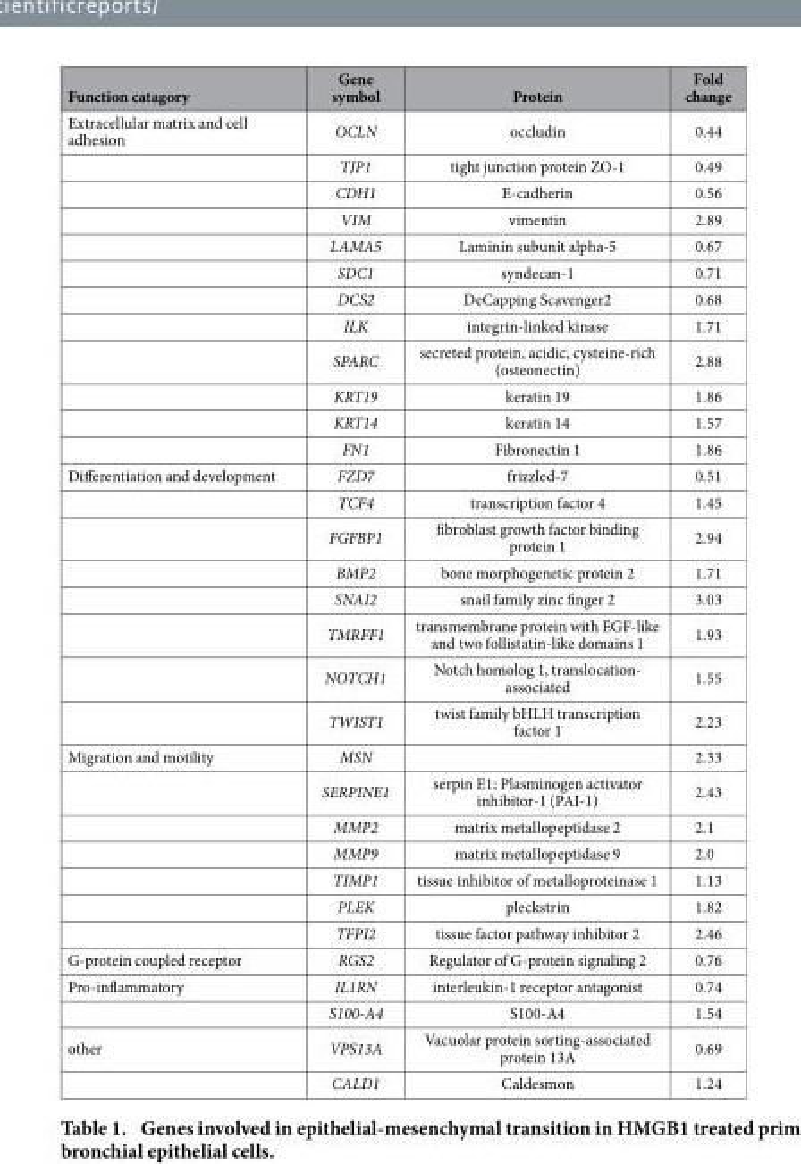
<table><thead><tr><td>Function catagory</td><td>Gene symbol</td><td>Protein</td><td>Fold change</td></tr></thead><tbody><tr><td rowspan="12">Extracellular matrix and cell adhesion</td><td>OCLN</td><td>occludin</td><td>0.44</td></tr><tr><td>TJP1</td><td>tight junction protein ZO-1</td><td>0.49</td></tr><tr><td>CDH1</td><td>E-cadherin</td><td>0.56</td></tr><tr><td>VIM</td><td>vimentin</td><td>2.89</td></tr><tr><td>LAMA5</td><td>Laminin subunit alpha-5</td><td>0.67</td></tr><tr><td>SDC1</td><td>syndecan-1</td><td>0.71</td></tr><tr><td>DCS2</td><td>DeCapping Scavenger2</td><td>0.68</td></tr><tr><td>ILK</td><td>integrin-linked kinase</td><td>1.71</td></tr><tr><td>SPARC</td><td>secreted protein, acidic, cysteine-rich (osteonectin)</td><td>2.88</td></tr><tr><td>KRT19</td><td>keratin 19</td><td>1.86</td></tr><tr><td>KRT14</td><td>keratin 14</td><td>1.57</td></tr><tr><td>FN1</td><td>Fibronectin 1</td><td>1.86</td></tr><tr><td rowspan="8">Differentiation and development</td><td>FZD7</td><td>frizzled-7</td><td>0.51</td></tr><tr><td>TCF4</td><td>transcription factor 4</td><td>1.45</td></tr><tr><td>FGFBP1</td><td>fibroblast growth factor binding protein 1</td><td>2.94</td></tr><tr><td>BMP2</td><td>bone morphogenetic protein 2</td><td>1.71</td></tr><tr><td>SNAI2</td><td>snail family zinc finger 2</td><td>3.03</td></tr><tr><td>TMRFF1</td><td>transmembrane protein with EGF-like and two follistatin-like domains 1</td><td>1.93</td></tr><tr><td>NOTCH1</td><td>Notch homolog 1, translocation- associated</td><td>1.55</td></tr><tr><td>TWIST1</td><td>twist family bHLH transcription factor 1</td><td>2.23</td></tr><tr><td rowspan="7">Migration and motility</td><td>MSN</td><td></td><td>2.33</td></tr><tr><td>SERPINE1</td><td>serpin E1; Plasminogen activator inhibitor-1 (PAI-1)</td><td>2.43</td></tr><tr><td>MMP2</td><td>matrix metallopeptidase 2</td><td>2.1</td></tr><tr><td>MMP9</td><td>matrix metallopeptidase 9</td><td>2.0</td></tr><tr><td>TIMP1</td><td>tissue inhibitor of metalloproteinase 1</td><td>1.13</td></tr><tr><td>PLEK</td><td>pleckstrin</td><td>1.82</td></tr><tr><td>TFPI2</td><td>tissue factor pathway inhibitor 2</td><td>2.46</td></tr><tr><td>G-protein coupled receptor</td><td>RGS2</td><td>Regulator of G-protein signaling 2</td><td>0.76</td></tr><tr><td rowspan="2">Pro-inflammatory</td><td>IL1RN</td><td>interleukin-1 receptor antagonist</td><td>0.74</td></tr><tr><td>S100-A4</td><td>S100-A4</td><td>1.54</td></tr><tr><td rowspan="2">other</td><td>VPS13A</td><td>Vacuolar protein sorting-associated protein 13A</td><td>0.69</td></tr><tr><td>CALD1</td><td>Caldesmon</td><td>1.24</td></tr></tbody></table>